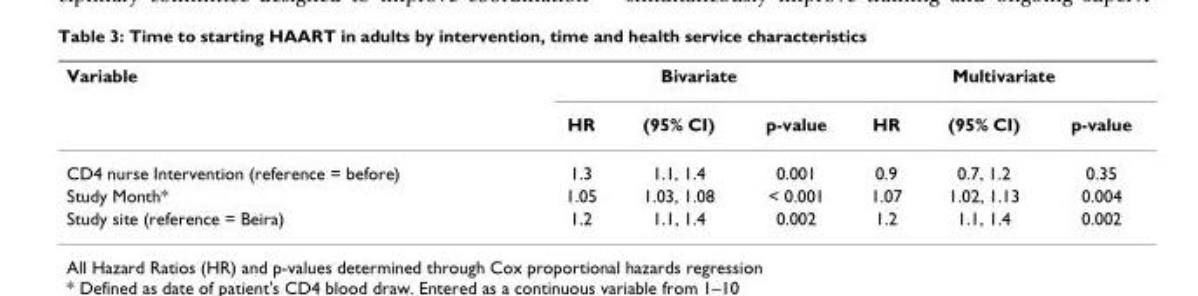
<table><thead><tr><td rowspan="2">Variable</td><td colspan="3">Bivariate</td><td colspan="3">Multivariate</td></tr><tr><td>HR</td><td>(95% CI)</td><td>p-value</td><td>HR</td><td>(95% CI)</td><td>p-value</td></tr></thead><tbody><tr><td>CD4 nurse Intervention (reference = before)</td><td>1.3</td><td>1.1, 1.4</td><td>0.001</td><td>0.9</td><td>0.7, 1.2</td><td>0.35</td></tr><tr><td>Study Month*</td><td>1.05</td><td>1.03, 1.08</td><td>&lt; 0.001</td><td>1.07</td><td>1.02, 1.13</td><td>0.004</td></tr><tr><td>Study site (reference = Beira)</td><td>1.2</td><td>1.1, 1.4</td><td>0.002</td><td>1.2</td><td>1.1, 1.4</td><td>0.002</td></tr></tbody></table>